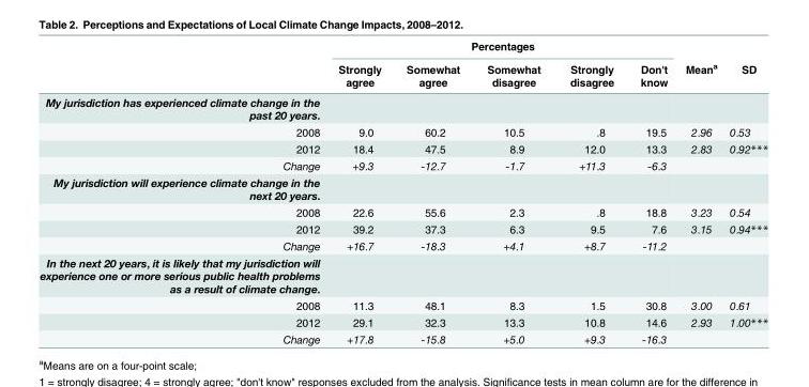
<table><thead><tr><td rowspan="2"></td><td colspan="5">Percentages</td><td rowspan="2">Mean<sup>a</sup></td><td rowspan="2">SD</td></tr><tr><td>Strongly agree</td><td>Somewhat agree</td><td>Somewhat disagree</td><td>Strongly disagree</td><td>Don&#x27;t know</td></tr></thead><tbody><tr><td colspan="8">My jurisdiction has experienced climate change in the past 20 years.</td></tr><tr><td>2008</td><td>9.0</td><td>60.2</td><td>10.5</td><td>.8</td><td>19.5</td><td>2.96</td><td>0.53</td></tr><tr><td>2012</td><td>18.4</td><td>47.5</td><td>8.9</td><td>12.0</td><td>13.3</td><td>2.83</td><td>0.92***</td></tr><tr><td>Change</td><td>+9.3</td><td>-12.7</td><td>-1.7</td><td>+11.3</td><td>-6.3</td><td></td><td></td></tr><tr><td colspan="8">My jurisdiction will experience climate change in the next 20 years.</td></tr><tr><td>2008</td><td>22.6</td><td>55.6</td><td>2.3</td><td>.8</td><td>18.8</td><td>3.23</td><td>0.54</td></tr><tr><td>2012</td><td>39.2</td><td>37.3</td><td>6.3</td><td>9.5</td><td>7.6</td><td>3.15</td><td>0.94***</td></tr><tr><td>Change</td><td>+16.7</td><td>-18.3</td><td>+4.1</td><td>+8.7</td><td>-11.2</td><td></td><td></td></tr><tr><td colspan="8">In the next 20 years, it is likely that my jurisdiction will experience one or more serious public health problems as a result of climate change.</td></tr><tr><td>2008</td><td>11.3</td><td>48.1</td><td>8.3</td><td>1.5</td><td>30.8</td><td>3.00</td><td>0.61</td></tr><tr><td>2012</td><td>29.1</td><td>32.3</td><td>13.3</td><td>10.8</td><td>14.6</td><td>2.93</td><td>1.00***</td></tr><tr><td>Change</td><td>+17.8</td><td>-15.8</td><td>+5.0</td><td>+9.3</td><td>-16.3</td><td></td><td></td></tr></tbody></table>